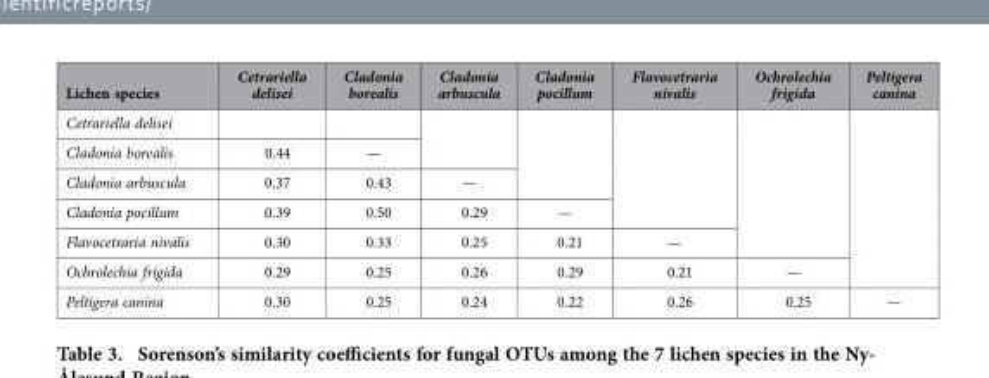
<table><thead><tr><td>Lichen species</td><td>Cetrariella delisei</td><td>Cladonia borealis</td><td>Cladonia arbuscula</td><td>Cladonia pocillum</td><td>Flavocetraria nivalis</td><td>Ochrolechia frigida</td><td>Peltigera canina</td></tr></thead><tbody><tr><td colspan="3">Cetrariella delisei</td><td rowspan="2"></td><td rowspan="3"></td><td rowspan="4"></td><td rowspan="5"></td><td rowspan="6"></td></tr><tr><td>Cladonia borealis</td><td>0.44</td><td>—</td></tr><tr><td>Cladonia arbuscula</td><td>0.37</td><td>0.43</td><td>—</td></tr><tr><td>Cladonia pocillum</td><td>0.39</td><td>0.50</td><td>0.29</td><td>—</td></tr><tr><td>Flavocetraria nivalis</td><td>0.30</td><td>0.33</td><td>0.25</td><td>0.21</td><td>—</td></tr><tr><td>Ochrolechia frigida</td><td>0.29</td><td>0.25</td><td>0.26</td><td>0.29</td><td>0.21</td><td>—</td></tr><tr><td>Peltigera canina</td><td>0.30</td><td>0.25</td><td>0.24</td><td>0.22</td><td>0.26</td><td>0.25</td><td>—</td></tr></tbody></table>